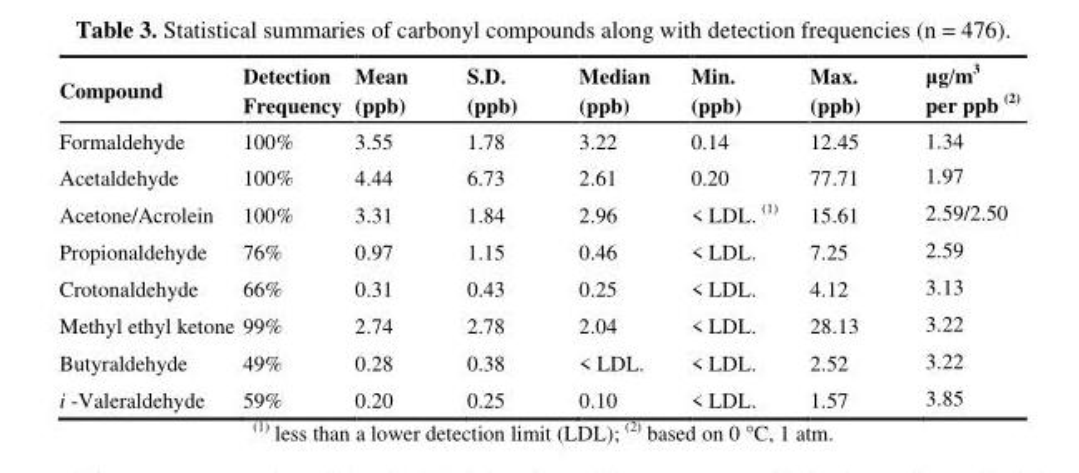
<table><thead><tr><td>Compound</td><td>Detection Frequency</td><td>Mean (ppb)</td><td>S.D. (ppb)</td><td>Median (ppb)</td><td>Min. (ppb)</td><td>Max. (ppb)</td><td>μg/m<sup>3</sup> per ppb <sup>(2)</sup></td></tr></thead><tbody><tr><td>Formaldehyde</td><td>100%</td><td>3.55</td><td>1.78</td><td>3.22</td><td>0.14</td><td>12.45</td><td>1.34</td></tr><tr><td>Acetaldehyde</td><td>100%</td><td>4.44</td><td>6.73</td><td>2.61</td><td>0.20</td><td>77.71</td><td>1.97</td></tr><tr><td>Acetone/Acrolein</td><td>100%</td><td>3.31</td><td>1.84</td><td>2.96</td><td>&lt; LDL. <sup>(1)</sup></td><td>15.61</td><td>2.59/2.50</td></tr><tr><td>Propionaldehyde</td><td>76%</td><td>0.97</td><td>1.15</td><td>0.46</td><td>&lt; LDL.</td><td>7.25</td><td>2.59</td></tr><tr><td>Crotonaldehyde</td><td>66%</td><td>0.31</td><td>0.43</td><td>0.25</td><td>&lt; LDL.</td><td>4.12</td><td>3.13</td></tr><tr><td>Methyl ethyl ketone</td><td>99%</td><td>2.74</td><td>2.78</td><td>2.04</td><td>&lt; LDL.</td><td>28.13</td><td>3.22</td></tr><tr><td>Butyraldehyde</td><td>49%</td><td>0.28</td><td>0.38</td><td>&lt; LDL.</td><td>&lt; LDL.</td><td>2.52</td><td>3.22</td></tr><tr><td>i -Valeraldehyde</td><td>59%</td><td>0.20</td><td>0.25</td><td>0.10</td><td>&lt; LDL.</td><td>1.57</td><td>3.85</td></tr></tbody></table>